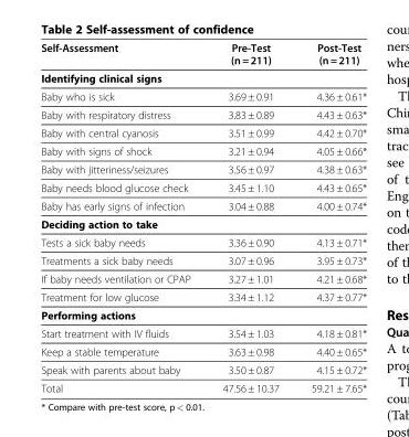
<table><thead><tr><td>Self-Assessment</td><td>Pre-Test (n = 211)</td><td>Post-Test (n = 211)</td></tr></thead><tbody><tr><td colspan="3">Identifying clinical signs</td></tr><tr><td>Baby who is sick</td><td>3.69 ± 0.91</td><td>4.36 ± 0.61*</td></tr><tr><td>Baby with respiratory distress</td><td>3.83 ± 0.89</td><td>4.43 ± 0.63*</td></tr><tr><td>Baby with central cyanosis</td><td>3.51 ± 0.99</td><td>4.42 ± 0.70*</td></tr><tr><td>Baby with signs of shock</td><td>3.21 ± 0.94</td><td>4.05 ± 0.66*</td></tr><tr><td>Baby with jitteriness/seizures</td><td>3.56 ± 0.97</td><td>4.38 ± 0.63*</td></tr><tr><td>Baby needs blood glucose check</td><td>3.45 ± 1.10</td><td>4.43 ± 0.65*</td></tr><tr><td>Baby has early signs of infection</td><td>3.04 ± 0.88</td><td>4.00 ± 0.74*</td></tr><tr><td colspan="3">Deciding action to take</td></tr><tr><td>Tests a sick baby needs</td><td>3.36 ± 0.90</td><td>4.13 ± 0.71*</td></tr><tr><td>Treatments a sick baby needs</td><td>3.07 ± 0.96</td><td>3.95 ± 0.73*</td></tr><tr><td>If baby needs ventilation or CPAP</td><td>3.27 ± 1.01</td><td>4.21 ± 0.68*</td></tr><tr><td>Treatment for low glucose</td><td>3.34 ± 1.12</td><td>4.37 ± 0.77*</td></tr><tr><td colspan="3">Performing actions</td></tr><tr><td>Start treatment with IV fluids</td><td>3.54 ± 1.03</td><td>4.18 ± 0.81*</td></tr><tr><td>Keep a stable temperature</td><td>3.63 ± 0.98</td><td>4.40 ± 0.65*</td></tr><tr><td>Speak with parents about baby</td><td>3.50 ± 0.87</td><td>4.15 ± 0.72*</td></tr><tr><td>Total</td><td>47.56 ± 10.37</td><td>59.21 ± 7.65*</td></tr></tbody></table>